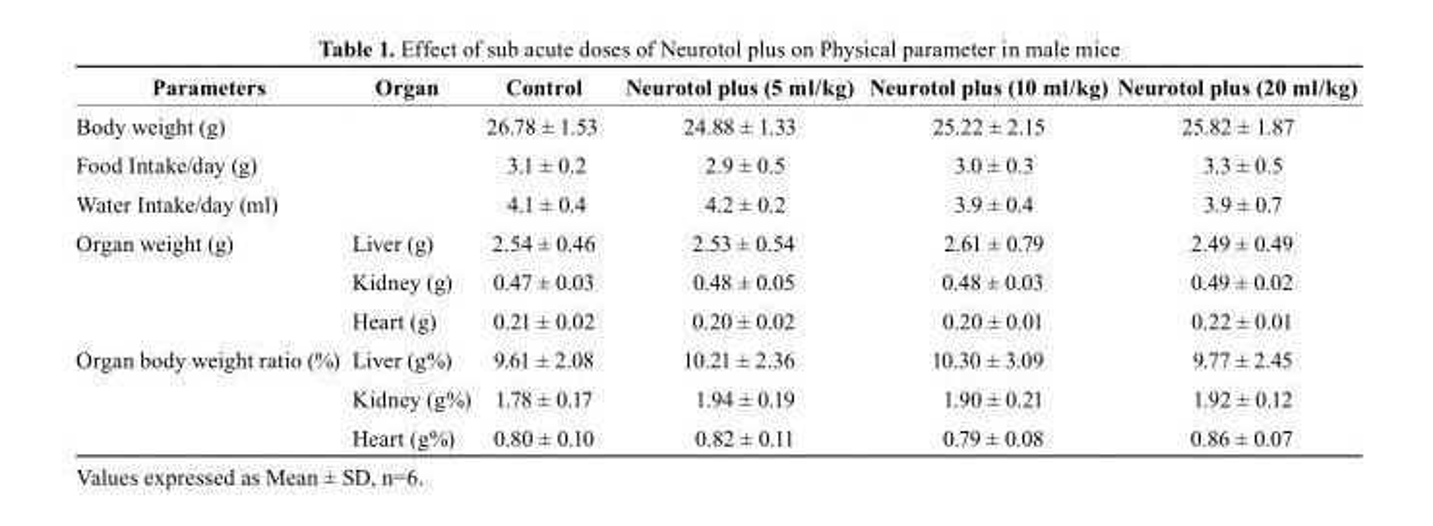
<table><thead><tr><td>Parameters</td><td>Organ</td><td>control</td><td>Neurotol plus (5 ml/kg)</td><td>Neurotol plus (10 ml/kg)</td><td>Neurotol plus (20 ml/kg)</td></tr></thead><tbody><tr><td>Body weight (g)</td><td></td><td>26.78 ± 1.53</td><td>24.88 ± 1.33</td><td>25.22 ± 2.15</td><td>25.82 ± 1.87</td></tr><tr><td>Food Intake/day (g)</td><td></td><td>3.1 ± 0.2</td><td>2.9 ± 0.5</td><td>3.0 ± 0.3</td><td>3.3 ± 0.5</td></tr><tr><td>Water Intake/day (ml)</td><td></td><td>4.1 ± 0.4</td><td>4.2 ± 0.2</td><td>3.9 ± 0.4</td><td>3.9 ± 0.7</td></tr><tr><td rowspan="3">Organ weight (g)</td><td>Liver (g)</td><td>2.54 ± 0.46</td><td>2.53 ± 0.54</td><td>2.61 ± 0.79</td><td>2.49 ± 0.49</td></tr><tr><td>Kidney (g)</td><td>0.47 ± 0.03</td><td>0.48 ± 0.05</td><td>0.48 ± 0.03</td><td>0.49 ± 0.02</td></tr><tr><td>Heart (g)</td><td>0.21 ± 0.02</td><td>0.20 ± 0.02</td><td>0.20 ± 0.01</td><td>0.22 ± 0.01</td></tr><tr><td rowspan="3">Organ body weight ratio (%)</td><td>Liver (g%)</td><td>9.61 ± 2.08</td><td>10.21 ± 2.36</td><td>10.30 ± 3.09</td><td>9.77 ± 2.45</td></tr><tr><td>Kidney (g%)</td><td>1.78 ± 0.17</td><td>1.94 ± 0.19</td><td>1.90 ± 0.21</td><td>1.92 ± 0.12</td></tr><tr><td>Heart (g%)</td><td>0.80 ± 0.10</td><td>0.82 ± 0.11</td><td>0.79 ± 0.08</td><td>0.86 ± 0.07</td></tr></tbody></table>